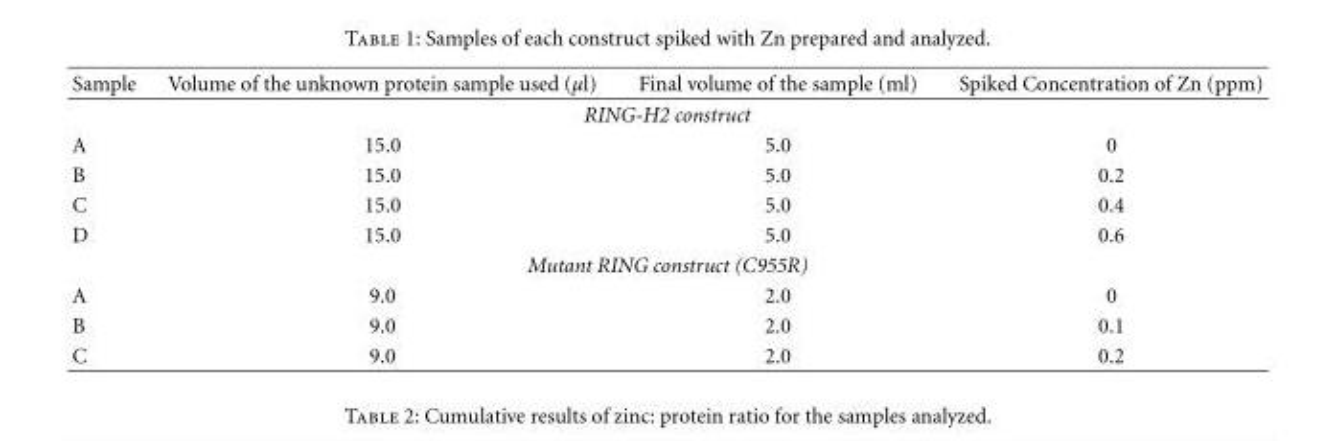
<table><thead><tr><td>Sample</td><td>Volume of the unknown protein sample used (μl)</td><td>Final volume of the sample (ml)</td><td>Spiked Concentration of Zn (ppm)</td></tr></thead><tbody><tr><td colspan="4">RING-H2 construct</td></tr><tr><td>A</td><td>15.0</td><td>5.0</td><td>0</td></tr><tr><td>B</td><td>15.0</td><td>5.0</td><td>0.2</td></tr><tr><td>C</td><td>15.0</td><td>5.0</td><td>0.4</td></tr><tr><td>D</td><td>15.0</td><td>5.0</td><td>0.6</td></tr><tr><td colspan="4">Mutant RING construct (C955R)</td></tr><tr><td>A</td><td>9.0</td><td>2.0</td><td>0</td></tr><tr><td>B</td><td>9.0</td><td>2.0</td><td>0.1</td></tr><tr><td>C</td><td>9.0</td><td>2.0</td><td>0.2</td></tr></tbody></table>